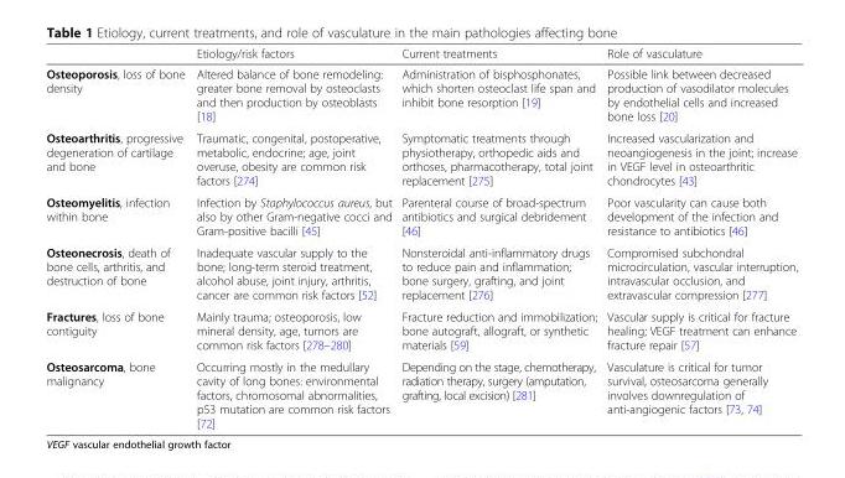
<table><thead><tr><td></td><td>Etiology/risk factors</td><td>Current treatments</td><td>Role of vasculature</td></tr></thead><tbody><tr><td>Osteoporosis, loss of bone density</td><td>Altered balance of bone remodeling: greater bone removal by osteoclasts and then production by osteoblasts [18]</td><td>Administration of bisphosphonates, which shorten osteoclast life span and inhibit bone resorption [19]</td><td>Possible link between decreased production of vasodilator molecules by endothelial cells and increased bone loss [20]</td></tr><tr><td>Osteoarthritis, progressive degeneration of cartilage and bone</td><td>Traumatic, congenital, postoperative, metabolic, endocrine; age, joint overuse, obesity are common risk factors [274]</td><td>Symptomatic treatments through physiotherapy, orthopedic aids and orthoses, pharmacotherapy, total joint replacement [275]</td><td>Increased vascularization and neoangiogenesis in the joint; increase in VEGF level in osteoarthritic chondrocytes [43]</td></tr><tr><td>Osteomyelitis, infection within bone</td><td>Infection by Staphylococcus aureus, but also by other Gram-negative cocci and Gram-positive bacilli [45]</td><td>Parenteral course of broad-spectrum antibiotics and surgical debridement [46]</td><td>Poor vascularity can cause both development of the infection and resistance to antibiotics [46]</td></tr><tr><td>Osteonecrosis, death of bone cells, arthritis, and destruction of bone</td><td>Inadequate vascular supply to the bone; long-term steroid treatment, alcohol abuse, joint injury, arthritis, cancer are common risk factors [52]</td><td>Nonsteroidal anti-inflammatory drugs to reduce pain and inflammation; bone surgery, grafting, and joint replacement [276]</td><td>Compromised subchondral microcirculation, vascular interruption, intravascular occlusion, and extravascular compression [277]</td></tr><tr><td>Fractures, loss of bone contiguity</td><td>Mainly trauma; osteoporosis, low mineral density, age, tumors are common risk factors [278–280]</td><td>Fracture reduction and immobilization; bone autograft, allograft, or synthetic materials [59]</td><td>Vascular supply is critical for fracture healing; VEGF treatment can enhance fracture repair [57]</td></tr><tr><td>Osteosarcoma, bone malignancy</td><td>Occurring mostly in the medullary cavity of long bones: environmental factors, chromosomal abnormalities, p53 mutation are common risk factors [72]</td><td>Depending on the stage, chemotherapy, radiation therapy, surgery (amputation, grafting, local excision) [281]</td><td>Vasculature is critical for tumor survival, osteosarcoma generally involves downregulation of anti-angiogenic factors [73, 74]</td></tr></tbody></table>